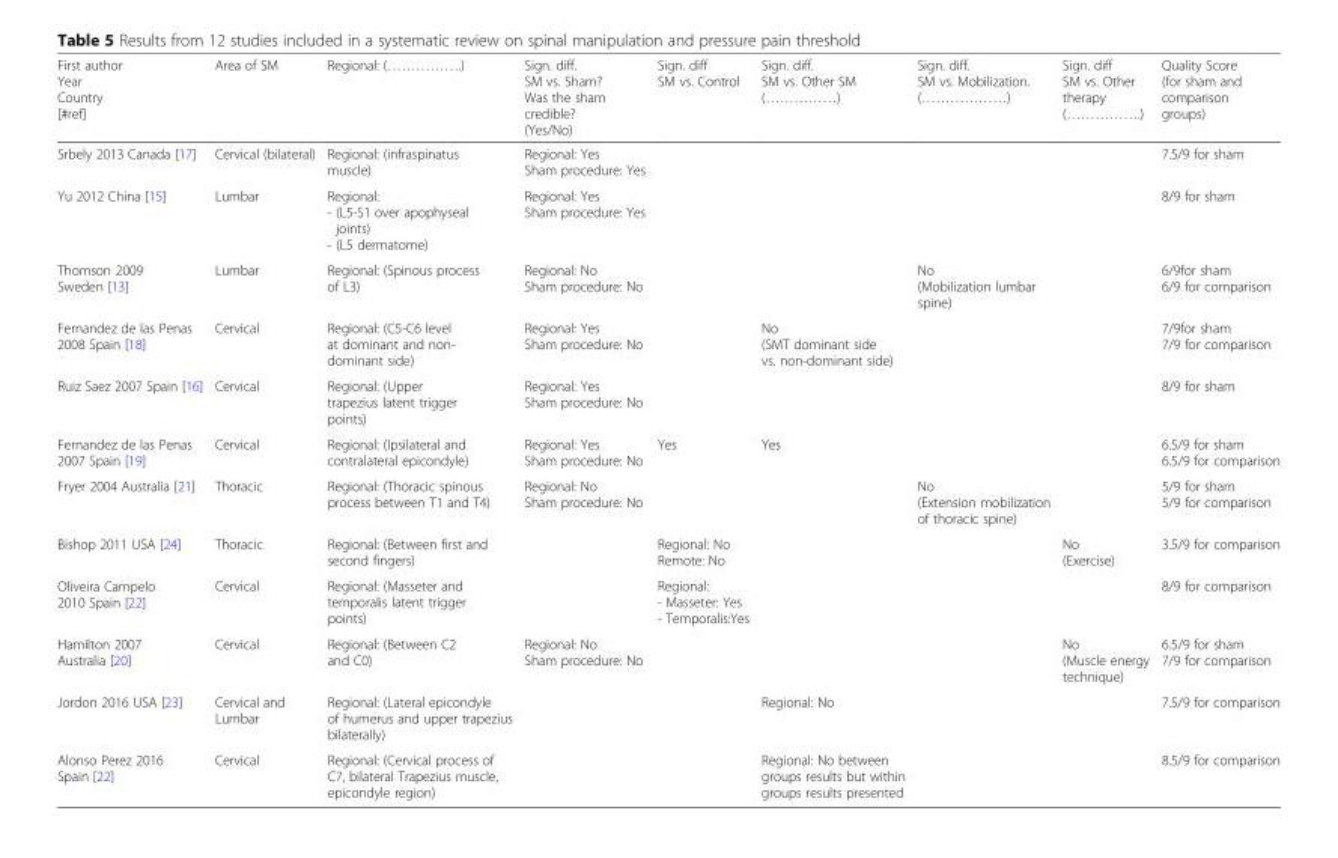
<table><thead><tr><td>First author Year Country [#ref]</td><td>Area of SM</td><td>Regional: (…………….)</td><td>Sign. diff. SM vs. Sham? Was the sham credible? (Yes/No)</td><td>Sign. diff SM vs. Control</td><td>Sign. diff. SM vs. Other SM (……………)</td><td>Sign. diff. SM vs. Mobilization. (………………)</td><td>Sign. diff SM vs. Other therapy (…………….)</td><td>Quality Score (for sham and comparison groups)</td></tr></thead><tbody><tr><td>Srbely 2013 Canada [17]</td><td>Cervical (bilateral)</td><td>Regional: (infraspinatus muscle)</td><td>Regional: Yes Sham procedure: Yes</td><td></td><td></td><td></td><td></td><td>7.5/9 for sham</td></tr><tr><td>Yu 2012 China [15]</td><td>Lumbar</td><td>Regional: - (L5-S1 over apophyseal joints) - (L5 dermatome)</td><td>Regional: Yes Sham procedure: Yes</td><td></td><td></td><td></td><td></td><td>8/9 for sham</td></tr><tr><td>Thomson 2009 Sweden [13]</td><td>Lumbar</td><td>Regional: (Spinous process of L3)</td><td>Regional: No Sham procedure: No</td><td></td><td></td><td>No (Mobilization lumbar spine)</td><td></td><td>6/9for sham 6/9 for comparison</td></tr><tr><td>Fernandez de las Penas 2008 Spain [18]</td><td>Cervical</td><td>Regional: (C5-C6 level at dominant and non- dominant side)</td><td>Regional: Yes Sham procedure: No</td><td></td><td>No (SMT dominant side vs. non-dominant side)</td><td></td><td></td><td>7/9for sham 7/9 for comparison</td></tr><tr><td>Ruiz Saez 2007 Spain [16]</td><td>Cervical</td><td>Regional: (Upper trapezius latent trigger points)</td><td>Regional: Yes Sham procedure: No</td><td></td><td></td><td></td><td></td><td>8/9 for sham</td></tr><tr><td>Fernandez de las Penas 2007 Spain [19]</td><td>Cervical</td><td>Regional: (Ipsilateral and contralateral epicondyle)</td><td>Regional: Yes Sham procedure: No</td><td>Yes</td><td>Yes</td><td></td><td></td><td>6.5/9 for sham 6.5/9 for comparison</td></tr><tr><td>Fryer 2004 Australia [21]</td><td>Thoracic</td><td>Regional: (Thoracic spinous process between T1 and T4)</td><td>Regional: No Sham procedure: No</td><td></td><td></td><td>No (Extension mobilization of thoracic spine)</td><td></td><td>5/9 for sham 5/9 for comparison</td></tr><tr><td>Bishop 2011 USA [24]</td><td>Thoracic</td><td>Regional: (Between first and second fingers)</td><td></td><td>Regional: No Remote: No</td><td></td><td></td><td>No (Exercise)</td><td>3.5/9 for comparison</td></tr><tr><td>Oliveira Campelo 2010 Spain [22]</td><td>Cervical</td><td>Regional: (Masseter and temporalis latent trigger points)</td><td></td><td>Regional: - Masseter: Yes - Temporalis:Yes</td><td></td><td></td><td></td><td>8/9 for comparison</td></tr><tr><td>Hamilton 2007 Australia [20]</td><td>Cervical</td><td>Regional: (Between C2 and C0)</td><td>Regional: No Sham procedure: No</td><td></td><td></td><td></td><td>No (Muscle energy technique)</td><td>6.5/9 for sham 7/9 for comparison</td></tr><tr><td>Jordon 2016 USA [23]</td><td>Cervical and Lumbar</td><td>Regional: (Lateral epicondyle of humerus and upper trapezius bilaterally)</td><td></td><td></td><td>Regional: No</td><td></td><td></td><td>7.5/9 for comparison</td></tr><tr><td>Alonso Perez 2016 Spain [22]</td><td>Cervical</td><td>Regional: (Cervical process of C7, bilateral Trapezius muscle, epicondyle region)</td><td></td><td></td><td>Regional: No between groups results but within groups results presented</td><td></td><td></td><td>8.5/9 for comparison</td></tr></tbody></table>